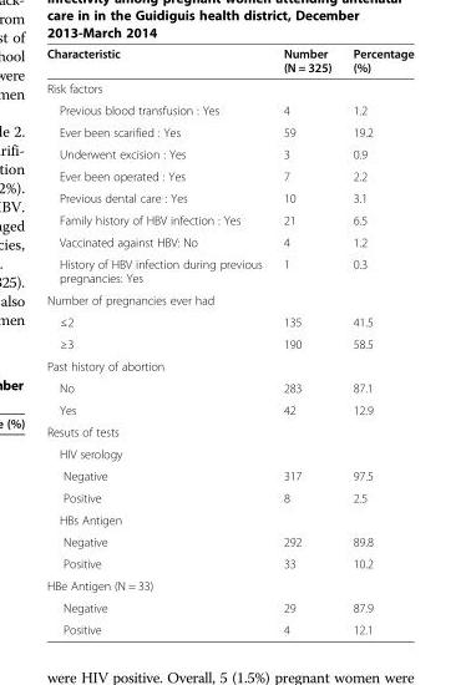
<table><thead><tr><td>Characteristic</td><td>Number (N = 325)</td><td>Percentage (%)</td></tr></thead><tbody><tr><td colspan="3">Risk factors</td></tr><tr><td>Previous blood transfusion : Yes</td><td>4</td><td>1.2</td></tr><tr><td>Ever been scarified : Yes</td><td>59</td><td>19.2</td></tr><tr><td>Underwent excision : Yes</td><td>3</td><td>0.9</td></tr><tr><td>Ever been operated : Yes</td><td>7</td><td>2.2</td></tr><tr><td>Previous dental care : Yes</td><td>10</td><td>3.1</td></tr><tr><td>Family history of HBV infection : Yes</td><td>21</td><td>6.5</td></tr><tr><td>Vaccinated against HBV: No</td><td>4</td><td>1.2</td></tr><tr><td>History of HBV infection during previous pregnancies: Yes</td><td>1</td><td>0.3</td></tr><tr><td colspan="3">Number of pregnancies ever had</td></tr><tr><td>≤2</td><td>135</td><td>41.5</td></tr><tr><td>≥3</td><td>190</td><td>58.5</td></tr><tr><td colspan="3">Past history of abortion</td></tr><tr><td>No</td><td>283</td><td>87.1</td></tr><tr><td>Yes</td><td>42</td><td>12.9</td></tr><tr><td colspan="3">Resuts of tests</td></tr><tr><td colspan="3">HIV serology</td></tr><tr><td>Negative</td><td>317</td><td>97.5</td></tr><tr><td>Positive</td><td>8</td><td>2.5</td></tr><tr><td colspan="3">HBs Antigen</td></tr><tr><td>Negative</td><td>292</td><td>89.8</td></tr><tr><td>Positive</td><td>33</td><td>10.2</td></tr><tr><td colspan="3">HBe Antigen (N = 33)</td></tr><tr><td>Negative</td><td>29</td><td>87.9</td></tr><tr><td>Positive</td><td>4</td><td>12.1</td></tr></tbody></table>